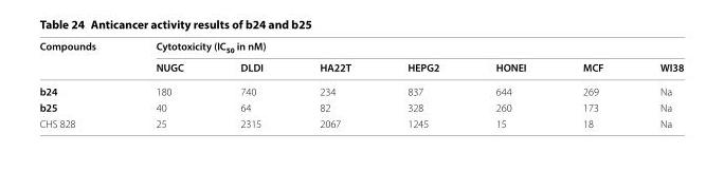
<table><thead><tr><td rowspan="2">Compounds</td><td colspan="7">Cytotoxicity (IC<sub>50</sub> in nM)</td></tr><tr><td>NUGC</td><td>DLDI</td><td>HA22T</td><td>HEPG2</td><td>HONEI</td><td>MCF</td><td>WI38</td></tr></thead><tbody><tr><td>b24</td><td>180</td><td>740</td><td>234</td><td>837</td><td>644</td><td>269</td><td>Na</td></tr><tr><td>b25</td><td>40</td><td>64</td><td>82</td><td>328</td><td>260</td><td>173</td><td>Na</td></tr><tr><td>CHS 828</td><td>25</td><td>2315</td><td>2067</td><td>1245</td><td>15</td><td>18</td><td>Na</td></tr></tbody></table>